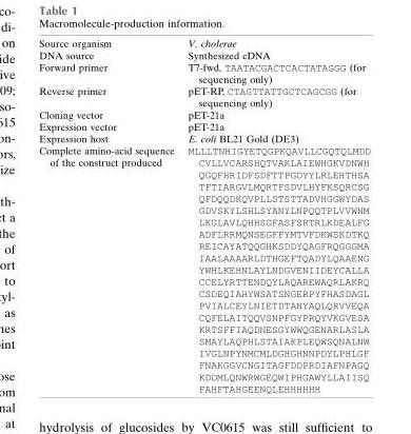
<table><tbody><tr><td>Source organism</td><td>V. cholerae</td></tr><tr><td>DNA source</td><td>Synthesized cDNA</td></tr><tr><td>Forward primer</td><td>T7-fwd, TAATACGACTCACTATAGGG (for sequencing only)</td></tr><tr><td>Reverse primer</td><td>pET-RP, CTAGTTATTGCTCAGCGG (for sequencing only)</td></tr><tr><td>Cloning vector</td><td>pET-21a</td></tr><tr><td>Expression vector</td><td>pET-21a</td></tr><tr><td>Expression host</td><td>E. coli BL21 Gold (DE3)</td></tr><tr><td>Complete amino-acid sequence of the construct produced</td><td>MLLLTNHIGYETQGPKQAVLLCGQTQLMDD CVLLVCARSHQTVAKLAIEWHGKVDNWH QGQFHRIDFSDFTTPGDYYLRLEHTHSA TFTIARGVLMQRTFSDVLHYFKSQRCSG QFDQQDKQVPLLSTSTTADVHGGWYDAS GDVSKYLSHLSYANYLNPQQTPLVVWNM LKGLAVLQHHSGFASFSRTRLKDEALFG ADFLRRMQNSEGFFYMTVFDKWSKDTKQ REICAYATQQGHKSDDYQAGFRQGGGMA IAALAAAARLDTHGEFTQADYLQAAENG YWHLKEHNLAYLNDGVENIIDEYCALLA CCELYRTTENDQYLAQAREWAQRLAKRQ CSDEQIAHYWSATSNGERPYFHASDAGL PVIALCEYLNIETDTANYAQLQRVVEQA CQFELAITQQVSNPFGYPRQYVKGVESA KRTSFFIAQDNESGYWWQGENARLASLA SMAYLAQPHLSTAIAKPLEQWSQNALNW IVGLNPYNMCMLDGHGHNNPDYLPHLGF FNAKGGVCNGITAGFDDPRDIAFNPAGQ KDDMLQNWRWGEQWIPHGAWYLLAIISQ FAHFTAHGEENQLEHHHHHH</td></tr></tbody></table>